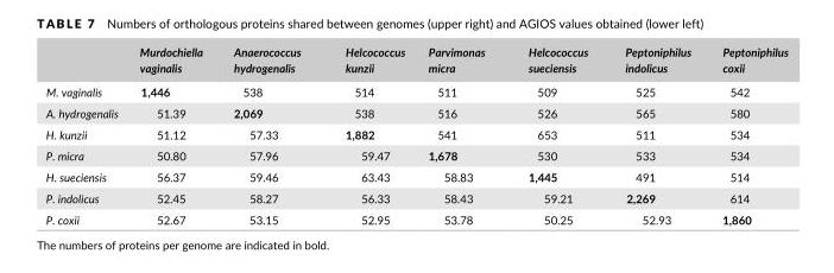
<table><thead><tr><td></td><td>Murdochiella vaginalis</td><td>Anaerococcus hydrogenalis</td><td>Helcococcus kunzii</td><td>Parvimonas micra</td><td>Helcococcus sueciensis</td><td>Peptoniphilus indolicus</td><td>Peptoniphilus coxii</td></tr></thead><tbody><tr><td>M. vaginalis</td><td>1,446</td><td>538</td><td>514</td><td>511</td><td>509</td><td>525</td><td>542</td></tr><tr><td>A. hydrogenalis</td><td>51.39</td><td>2,069</td><td>538</td><td>516</td><td>526</td><td>565</td><td>580</td></tr><tr><td>H. kunzii</td><td>51.12</td><td>57.33</td><td>1,882</td><td>541</td><td>653</td><td>511</td><td>534</td></tr><tr><td>P. micra</td><td>50.80</td><td>57.96</td><td>59.47</td><td>1,678</td><td>530</td><td>533</td><td>534</td></tr><tr><td>H. sueciensis</td><td>56.37</td><td>59.46</td><td>63.43</td><td>58.83</td><td>1,445</td><td>491</td><td>514</td></tr><tr><td>P. indolicus</td><td>52.45</td><td>58.27</td><td>56.33</td><td>58.43</td><td>59.21</td><td>2,269</td><td>614</td></tr><tr><td>P. coxii</td><td>52.67</td><td>53.15</td><td>52.95</td><td>53.78</td><td>50.25</td><td>52.93</td><td>1,860</td></tr></tbody></table>